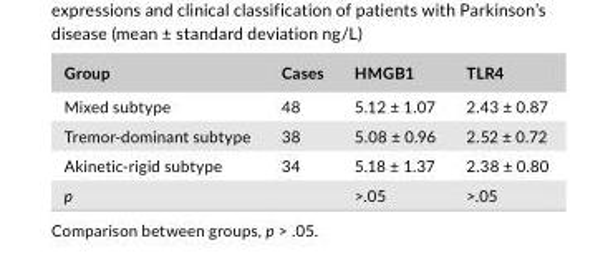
<table><thead><tr><td>Group</td><td>Cases</td><td>HMGB1</td><td>TLR4</td></tr></thead><tbody><tr><td>Mixed subtype</td><td>48</td><td>5.12 ± 1.07</td><td>2.43 ± 0.87</td></tr><tr><td>Tremor- dominant subtype</td><td>38</td><td>5.08 ± 0.96</td><td>2.52 ± 0.72</td></tr><tr><td>Akinetic- rigid subtype</td><td>34</td><td>5.18 ± 1.37</td><td>2.38 ± 0.80</td></tr><tr><td>p</td><td></td><td>&gt;.05</td><td>&gt;.05</td></tr></tbody></table>